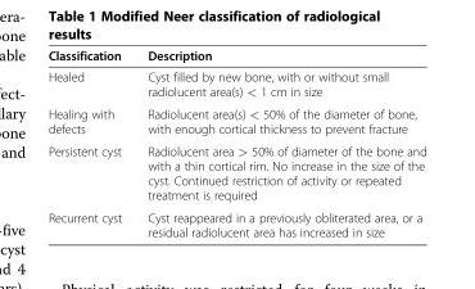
<table><thead><tr><td>Classification</td><td>Description</td></tr></thead><tbody><tr><td>Healed</td><td>Cyst filled by new bone, with or without small radiolucent area(s) &lt; 1 cm in size</td></tr><tr><td>Healing with defects</td><td>Radiolucent area(s) &lt; 50% of the diameter of bone, with enough cortical thickness to prevent fracture</td></tr><tr><td>Persistent cyst</td><td>Radiolucent area &gt; 50% of diameter of the bone and with a thin cortical rim. No increase in the size of the cyst. Continued restriction of activity or repeated treatment is required</td></tr><tr><td>Recurrent cyst</td><td>Cyst reappeared in a previously obliterated area, or a residual radiolucent area has increased in size</td></tr></tbody></table>